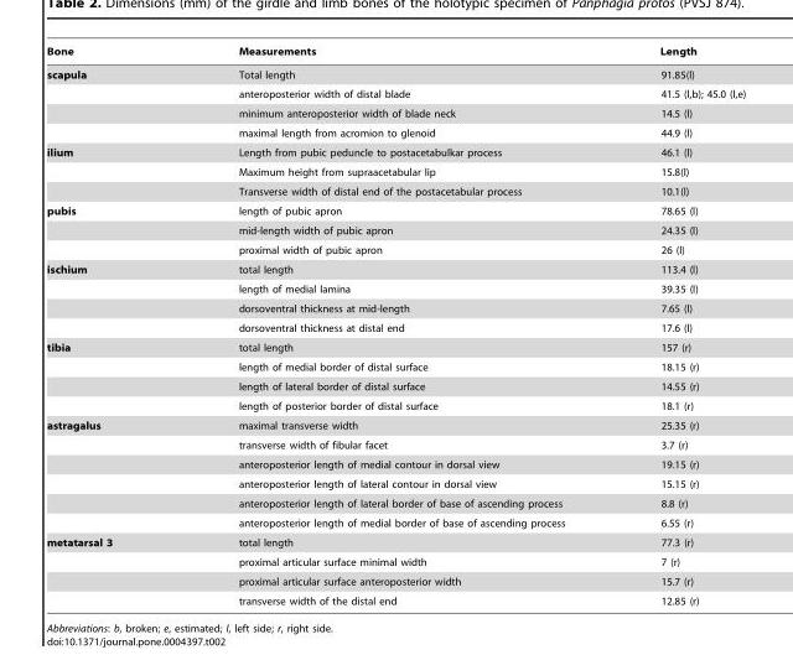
<table><thead><tr><td>Bone</td><td>Measurements</td><td>Length</td></tr></thead><tbody><tr><td rowspan="4">scapula</td><td>Total length</td><td>91.85(l)</td></tr><tr><td>anteroposterior width of distal blade</td><td>41.5 (l,b); 45.0 (l,e)</td></tr><tr><td>minimum anteroposterior width of blade neck</td><td>14.5 (l)</td></tr><tr><td>maximal length from acromion to glenoid</td><td>44.9 (l)</td></tr><tr><td rowspan="3">ilium</td><td>Length from pubic peduncle to postacetabulkar process</td><td>46.1 (l)</td></tr><tr><td>Maximum height from supraacetabular lip</td><td>15.8(l)</td></tr><tr><td>Transverse width of distal end of the postacetabular process</td><td>10.1(l)</td></tr><tr><td rowspan="3">pubis</td><td>length of pubic apron</td><td>78.65 (l)</td></tr><tr><td>mid-length width of pubic apron</td><td>24.35 (l)</td></tr><tr><td>proximal width of pubic apron</td><td>26 (l)</td></tr><tr><td rowspan="4">ischium</td><td>total length</td><td>113.4 (l)</td></tr><tr><td>length of medial lamina</td><td>39.35 (l)</td></tr><tr><td>dorsoventral thickness at mid-length</td><td>7.65 (l)</td></tr><tr><td>dorsoventral thickness at distal end</td><td>17.6 (l)</td></tr><tr><td rowspan="4">tibia</td><td>total length</td><td>157 (r)</td></tr><tr><td>length of medial border of distal surface</td><td>18.15 (r)</td></tr><tr><td>length of lateral border of distal surface</td><td>14.55 (r)</td></tr><tr><td>length of posterior border of distal surface</td><td>18.1 (r)</td></tr><tr><td rowspan="6">astragalus</td><td>maximal transverse width</td><td>25.35 (r)</td></tr><tr><td>transverse width of fibular facet</td><td>3.7 (r)</td></tr><tr><td>anteroposterior length of medial contour in dorsal view</td><td>19.15 (r)</td></tr><tr><td>anteroposterior length of lateral contour in dorsal view</td><td>15.15 (r)</td></tr><tr><td>anteroposterior length of lateral border of base of ascending process</td><td>8.8 (r)</td></tr><tr><td>anteroposterior length of medial border of base of ascending process</td><td>6.55 (r)</td></tr><tr><td rowspan="4">metatarsal 3</td><td>total length</td><td>77.3 (r)</td></tr><tr><td>proximal articular surface minimal width</td><td>7 (r)</td></tr><tr><td>proximal articular surface anteroposterior width</td><td>15.7 (r)</td></tr><tr><td>transverse width of the distal end</td><td>12.85 (r)</td></tr></tbody></table>